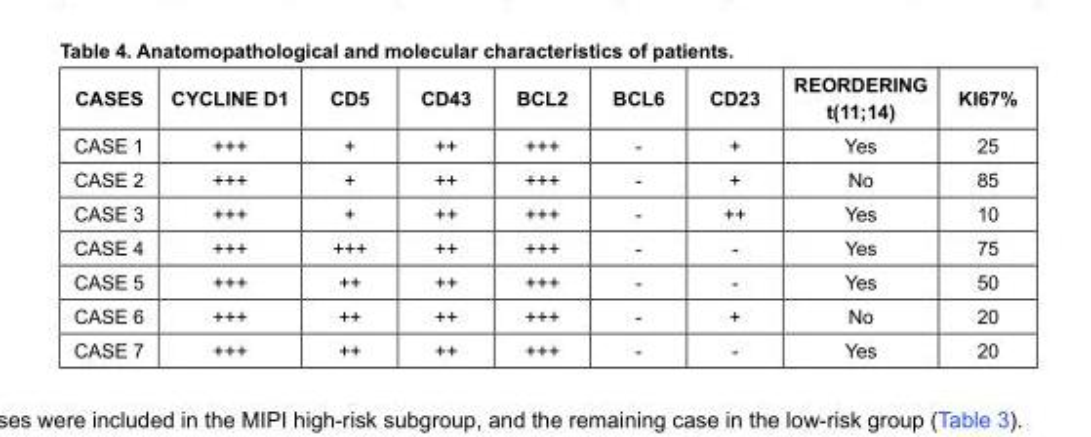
<table><thead><tr><td>CASES</td><td>CYCLINE D1</td><td>CD5</td><td>CD43</td><td>BCL2</td><td>BCL6</td><td>CD23</td><td>REORDERING t(11;14)</td><td>KI67%</td></tr></thead><tbody><tr><td>CASE 1</td><td>+++</td><td>+</td><td>++</td><td>+++</td><td>-</td><td>+</td><td>Yes</td><td>25</td></tr><tr><td>CASE 2</td><td>+++</td><td>+</td><td>++</td><td>+++</td><td>-</td><td>+</td><td>No</td><td>85</td></tr><tr><td>CASE 3</td><td>+++</td><td>+</td><td>++</td><td>+++</td><td>-</td><td>++</td><td>Yes</td><td>10</td></tr><tr><td>CASE 4</td><td>+++</td><td>+++</td><td>++</td><td>+++</td><td>-</td><td>-</td><td>Yes</td><td>75</td></tr><tr><td>CASE 5</td><td>+++</td><td>++</td><td>++</td><td>+++</td><td>-</td><td>-</td><td>Yes</td><td>50</td></tr><tr><td>CASE 6</td><td>+++</td><td>++</td><td>++</td><td>+++</td><td>-</td><td>+</td><td>No</td><td>20</td></tr><tr><td>CASE 7</td><td>+++</td><td>++</td><td>++</td><td>+++</td><td>-</td><td>-</td><td>Yes</td><td>20</td></tr></tbody></table>